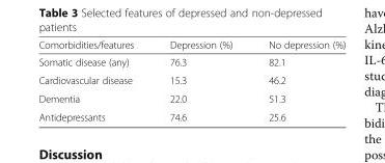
<table><thead><tr><td>Comorbidities/features</td><td>Depression (%)</td><td>No depression (%)</td></tr></thead><tbody><tr><td>Somatic disease (any)</td><td>76.3</td><td>82.1</td></tr><tr><td>Cardiovascular disease</td><td>15.3</td><td>46.2</td></tr><tr><td>Dementia</td><td>22.0</td><td>51.3</td></tr><tr><td>Antidepressants</td><td>74.6</td><td>25.6</td></tr></tbody></table>